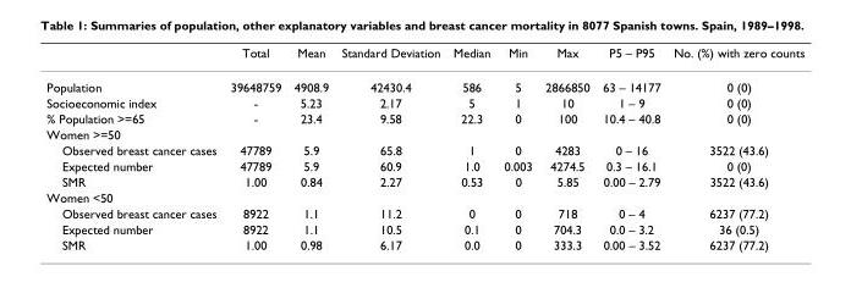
<table><thead><tr><td></td><td>Total</td><td>Mean</td><td>Standard Deviation</td><td>Median</td><td>Min</td><td>Max</td><td>P5 – P95</td><td>No. (%) with zero counts</td></tr></thead><tbody><tr><td>Population</td><td>39648759</td><td>4908.9</td><td>42430.4</td><td>586</td><td>5</td><td>2866850</td><td>63 – 14177</td><td>0 (0)</td></tr><tr><td>Socioeconomic index</td><td>-</td><td>5.23</td><td>2.17</td><td>5</td><td>1</td><td>10</td><td>1 – 9</td><td>0 (0)</td></tr><tr><td>% Population &gt;=65</td><td>-</td><td>23.4</td><td>9.58</td><td>22.3</td><td>0</td><td>100</td><td>10.4 – 40.8</td><td>0 (0)</td></tr><tr><td colspan="9">Women &gt;=50</td></tr><tr><td>Observed breast cancer cases</td><td>47789</td><td>5.9</td><td>65.8</td><td>1</td><td>0</td><td>4283</td><td>0 – 16</td><td>3522 (43.6)</td></tr><tr><td>Expected number</td><td>47789</td><td>5.9</td><td>60.9</td><td>1.0</td><td>0.003</td><td>4274.5</td><td>0.3 – 16.1</td><td>0 (0)</td></tr><tr><td>SMR</td><td>1.00</td><td>0.84</td><td>2.27</td><td>0.53</td><td>0</td><td>5.85</td><td>0.00 – 2.79</td><td>3522 (43.6)</td></tr><tr><td colspan="9">Women &lt;50</td></tr><tr><td>Observed breast cancer cases</td><td>8922</td><td>1.1</td><td>11.2</td><td>0</td><td>0</td><td>718</td><td>0 – 4</td><td>6237 (77.2)</td></tr><tr><td>Expected number</td><td>8922</td><td>1.1</td><td>10.5</td><td>0.1</td><td>0</td><td>704.3</td><td>0.0 – 3.2</td><td>36 (0.5)</td></tr><tr><td>SMR</td><td>1.00</td><td>0.98</td><td>6.17</td><td>0.0</td><td>0</td><td>333.3</td><td>0.00 – 3.52</td><td>6237 (77.2)</td></tr></tbody></table>